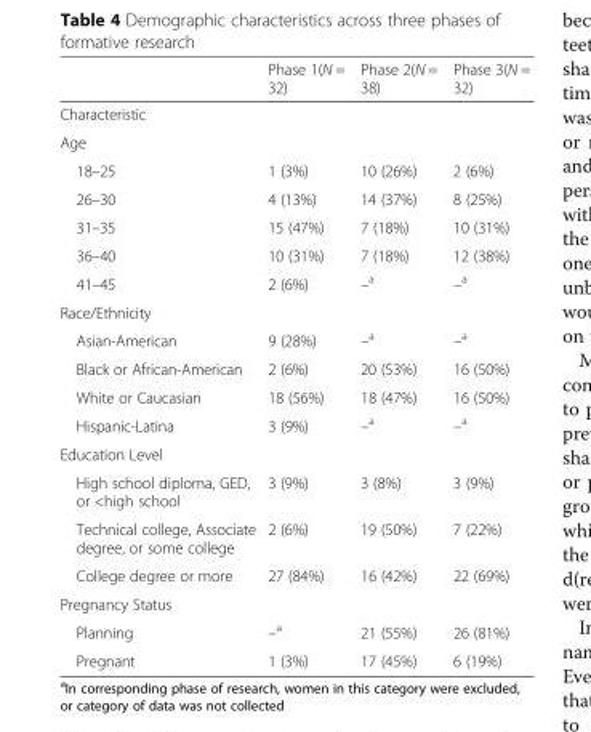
<table><thead><tr><td></td><td>Phase 1(N = 32)</td><td>Phase 2(N = 38)</td><td>Phase 3(N = 32)</td></tr></thead><tbody><tr><td colspan="4">Characteristic</td></tr><tr><td colspan="4">Age</td></tr><tr><td>18–25</td><td>1 (3%)</td><td>10 (26%)</td><td>2 (6%)</td></tr><tr><td>26–30</td><td>4 (13%)</td><td>14 (37%)</td><td>8 (25%)</td></tr><tr><td>31–35</td><td>15 (47%)</td><td>7 (18%)</td><td>10 (31%)</td></tr><tr><td>36–40</td><td>10 (31%)</td><td>7 (18%)</td><td>12 (38%)</td></tr><tr><td>41–45</td><td>2 (6%)</td><td>–a</td><td>–a</td></tr><tr><td colspan="4">Race/Ethnicity</td></tr><tr><td>Asian-American</td><td>9 (28%)</td><td>–a</td><td>–a</td></tr><tr><td>Black or African-American</td><td>2 (6%)</td><td>20 (53%)</td><td>16 (50%)</td></tr><tr><td>White or Caucasian</td><td>18 (56%)</td><td>18 (47%)</td><td>16 (50%)</td></tr><tr><td>Hispanic-Latina</td><td>3 (9%)</td><td>–a</td><td>–a</td></tr><tr><td colspan="4">Education Level</td></tr><tr><td>High school diploma, GED, or &lt;high school</td><td>3 (9%)</td><td>3 (8%)</td><td>3 (9%)</td></tr><tr><td>Technical college, Associate degree, or some college</td><td>2 (6%)</td><td>19 (50%)</td><td>7 (22%)</td></tr><tr><td>College degree or more</td><td>27 (84%)</td><td>16 (42%)</td><td>22 (69%)</td></tr><tr><td colspan="4">Pregnancy Status</td></tr><tr><td>Planning</td><td>–a</td><td>21 (55%)</td><td>26 (81%)</td></tr><tr><td>Pregnant</td><td>1 (3%)</td><td>17 (45%)</td><td>6 (19%)</td></tr></tbody></table>